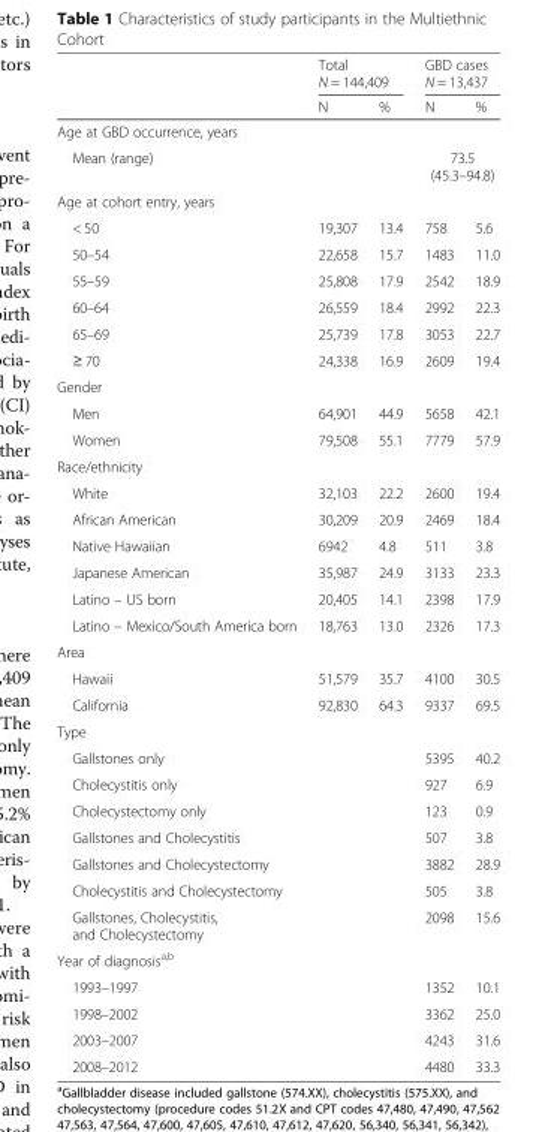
<table><thead><tr><td rowspan="2"></td><td colspan="2">Total N = 144,409</td><td colspan="2">GBD cases N = 13,437</td></tr><tr><td>N</td><td>%</td><td>N</td><td>%</td></tr></thead><tbody><tr><td colspan="5">Age at GBD occurrence, years</td></tr><tr><td>Mean (range)</td><td></td><td></td><td colspan="2">73.5 (45.3–94.8)</td></tr><tr><td colspan="5">Age at cohort entry, years</td></tr><tr><td>&lt; 50</td><td>19,307</td><td>13.4</td><td>758</td><td>5.6</td></tr><tr><td>50–54</td><td>22,658</td><td>15.7</td><td>1483</td><td>11.0</td></tr><tr><td>55–59</td><td>25,808</td><td>17.9</td><td>2542</td><td>18.9</td></tr><tr><td>60–64</td><td>26,559</td><td>18.4</td><td>2992</td><td>22.3</td></tr><tr><td>65–69</td><td>25,739</td><td>17.8</td><td>3053</td><td>22.7</td></tr><tr><td>≥ 70</td><td>24,338</td><td>16.9</td><td>2609</td><td>19.4</td></tr><tr><td colspan="5">Gender</td></tr><tr><td>Men</td><td>64,901</td><td>44.9</td><td>5658</td><td>42.1</td></tr><tr><td>Women</td><td>79,508</td><td>55.1</td><td>7779</td><td>57.9</td></tr><tr><td colspan="5">Race/ethnicity</td></tr><tr><td>White</td><td>32,103</td><td>22.2</td><td>2600</td><td>19.4</td></tr><tr><td>African American</td><td>30,209</td><td>20.9</td><td>2469</td><td>18.4</td></tr><tr><td>Native Hawaiian</td><td>6942</td><td>4.8</td><td>511</td><td>3.8</td></tr><tr><td>Japanese American</td><td>35,987</td><td>24.9</td><td>3133</td><td>23.3</td></tr><tr><td>Latino – US born</td><td>20,405</td><td>14.1</td><td>2398</td><td>17.9</td></tr><tr><td>Latino – Mexico/South America born</td><td>18,763</td><td>13.0</td><td>2326</td><td>17.3</td></tr><tr><td colspan="5">Area</td></tr><tr><td>Hawaii</td><td>51,579</td><td>35.7</td><td>4100</td><td>30.5</td></tr><tr><td>California</td><td>92,830</td><td>64.3</td><td>9337</td><td>69.5</td></tr><tr><td colspan="5">Type</td></tr><tr><td>Gallstones only</td><td></td><td></td><td>5395</td><td>40.2</td></tr><tr><td>Cholecystitis only</td><td></td><td></td><td>927</td><td>6.9</td></tr><tr><td>Cholecystectomy only</td><td></td><td></td><td>123</td><td>0.9</td></tr><tr><td>Gallstones and Cholecystitis</td><td></td><td></td><td>507</td><td>3.8</td></tr><tr><td>Gallstones and Cholecystectomy</td><td></td><td></td><td>3882</td><td>28.9</td></tr><tr><td>Cholecystitis and Cholecystectomy</td><td></td><td></td><td>505</td><td>3.8</td></tr><tr><td>Gallstones, Cholecystitis, and Cholecystectomy</td><td></td><td></td><td>2098</td><td>15.6</td></tr><tr><td colspan="5">Year of diagnosis<sup>a,b</sup></td></tr><tr><td>1993–1997</td><td></td><td></td><td>1352</td><td>10.1</td></tr><tr><td>1998–2002</td><td></td><td></td><td>3362</td><td>25.0</td></tr><tr><td>2003–2007</td><td></td><td></td><td>4243</td><td>31.6</td></tr><tr><td>2008–2012</td><td></td><td></td><td>4480</td><td>33.3</td></tr></tbody></table>